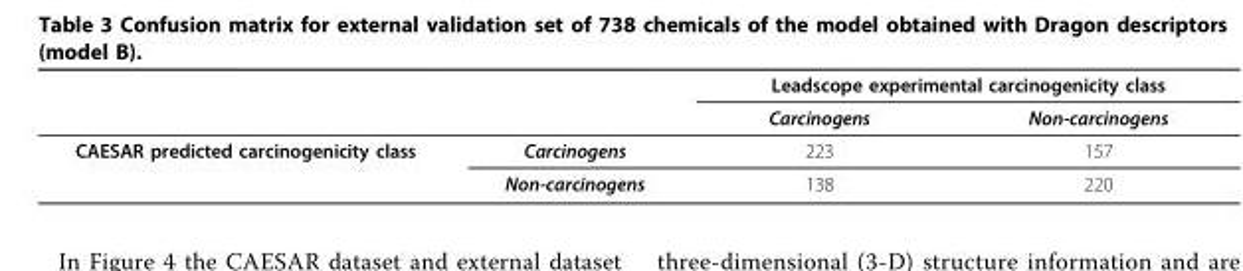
<table><thead><tr><td rowspan="2"></td><td rowspan="2"></td><td colspan="2">Leadscope experimental carcinogenicity class</td></tr><tr><td>Carcinogens</td><td>Non-carcinogens</td></tr></thead><tbody><tr><td rowspan="2">CAESAR predicted carcinogenicity class</td><td>Carcinogens</td><td>223</td><td>157</td></tr><tr><td>Non-carcinogens</td><td>138</td><td>220</td></tr></tbody></table>